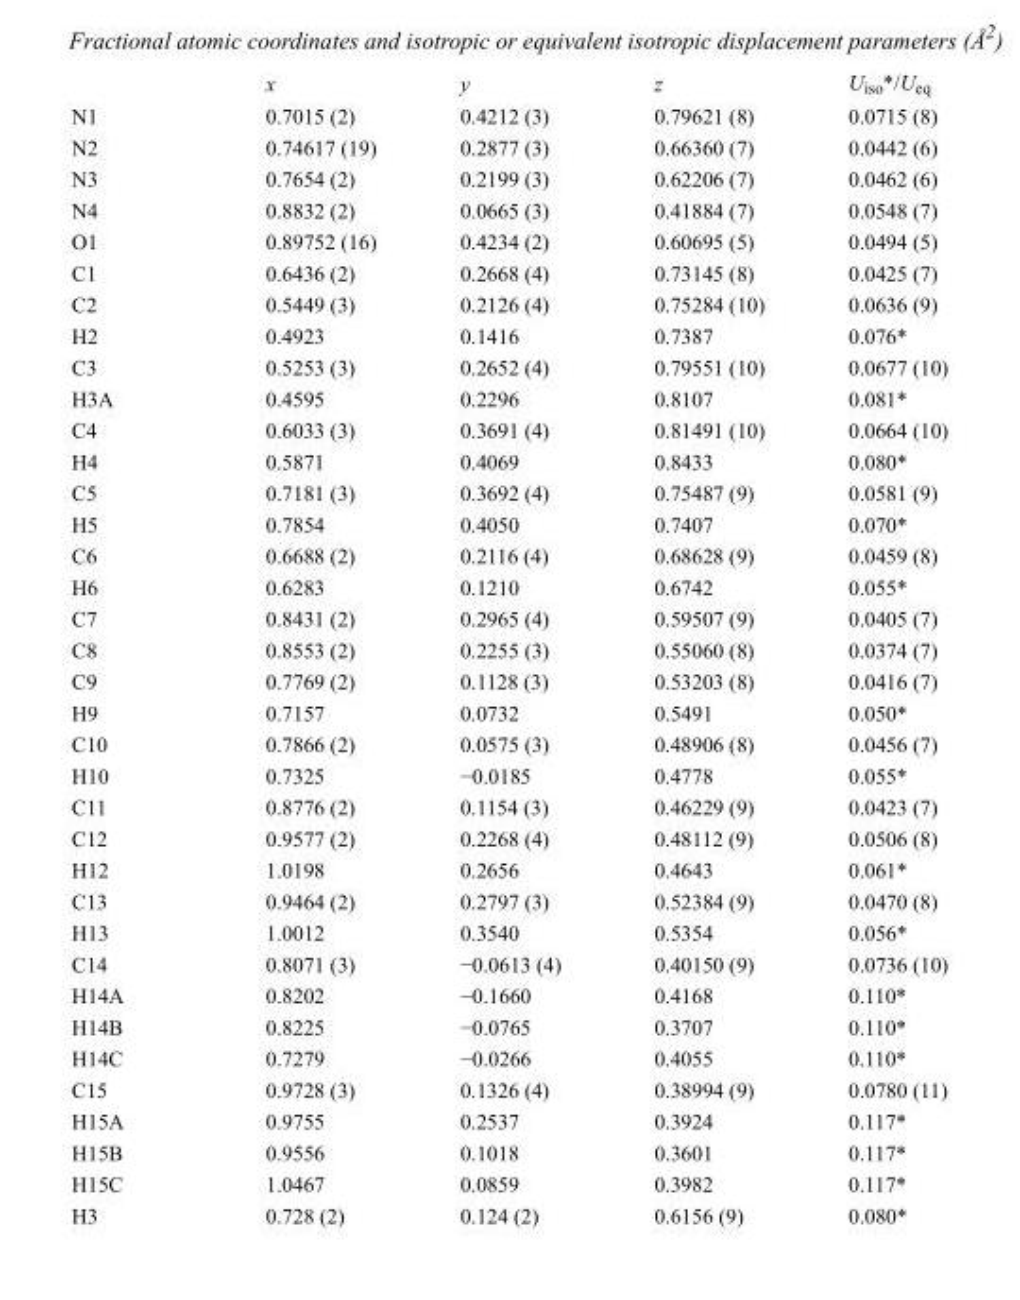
<table><thead><tr><td></td><td>x</td><td>y</td><td>z</td><td>U<sub>iso</sub>*/U<sub>eq</sub></td></tr></thead><tbody><tr><td>N1</td><td>0.7015 (2)</td><td>0.4212 (3)</td><td>0.79621 (8)</td><td>0.0715 (8)</td></tr><tr><td>N2</td><td>0.74617 (19)</td><td>0.2877 (3)</td><td>0.66360 (7)</td><td>0.0442 (6)</td></tr><tr><td>N3</td><td>0.7654 (2)</td><td>0.2199 (3)</td><td>0.62206 (7)</td><td>0.0462 (6)</td></tr><tr><td>N4</td><td>0.8832 (2)</td><td>0.0665 (3)</td><td>0.41884 (7)</td><td>0.0548 (7)</td></tr><tr><td>O1</td><td>0.89752 (16)</td><td>0.4234 (2)</td><td>0.60695 (5)</td><td>0.0494 (5)</td></tr><tr><td>C1</td><td>0.6436 (2)</td><td>0.2668 (4)</td><td>0.73145 (8)</td><td>0.0425 (7)</td></tr><tr><td>C2</td><td>0.5449 (3)</td><td>0.2126 (4)</td><td>0.75284 (10)</td><td>0.0636 (9)</td></tr><tr><td>H2</td><td>0.4923</td><td>0.1416</td><td>0.7387</td><td>0.076*</td></tr><tr><td>C3</td><td>0.5253 (3)</td><td>0.2652 (4)</td><td>0.79551 (10)</td><td>0.0677 (10)</td></tr><tr><td>H3A</td><td>0.4595</td><td>0.2296</td><td>0.8107</td><td>0.081*</td></tr><tr><td>C4</td><td>0.6033 (3)</td><td>0.3691 (4)</td><td>0.81491 (10)</td><td>0.0664 (10)</td></tr><tr><td>H4</td><td>0.5871</td><td>0.4069</td><td>0.8433</td><td>0.080*</td></tr><tr><td>C5</td><td>0.7181 (3)</td><td>0.3692 (4)</td><td>0.75487 (9)</td><td>0.0581 (9)</td></tr><tr><td>H5</td><td>0.7854</td><td>0.4050</td><td>0.7407</td><td>0.070*</td></tr><tr><td>C6</td><td>0.6688 (2)</td><td>0.2116 (4)</td><td>0.68628 (9)</td><td>0.0459 (8)</td></tr><tr><td>H6</td><td>0.6283</td><td>0.1210</td><td>0.6742</td><td>0.055*</td></tr><tr><td>C7</td><td>0.8431 (2)</td><td>0.2965 (4)</td><td>0.59507 (9)</td><td>0.0405 (7)</td></tr><tr><td>C8</td><td>0.8553 (2)</td><td>0.2255 (3)</td><td>0.55060 (8)</td><td>0.0374 (7)</td></tr><tr><td>C9</td><td>0.7769 (2)</td><td>0.1128 (3)</td><td>0.53203 (8)</td><td>0.0416 (7)</td></tr><tr><td>H9</td><td>0.7157</td><td>0.0732</td><td>0.5491</td><td>0.050*</td></tr><tr><td>C10</td><td>0.7866 (2)</td><td>0.0575 (3)</td><td>0.48906 (8)</td><td>0.0456 (7)</td></tr><tr><td>H10</td><td>0.7325</td><td>−0.0185</td><td>0.4778</td><td>0.055*</td></tr><tr><td>C11</td><td>0.8776 (2)</td><td>0.1154 (3)</td><td>0.46229 (9)</td><td>0.0423 (7)</td></tr><tr><td>C12</td><td>0.9577 (2)</td><td>0.2268 (4)</td><td>0.48112 (9)</td><td>0.0506 (8)</td></tr><tr><td>H12</td><td>1.0198</td><td>0.2656</td><td>0.4643</td><td>0.061*</td></tr><tr><td>C13</td><td>0.9464 (2)</td><td>0.2797 (3)</td><td>0.52384 (9)</td><td>0.0470 (8)</td></tr><tr><td>H13</td><td>1.0012</td><td>0.3540</td><td>0.5354</td><td>0.056*</td></tr><tr><td>C14</td><td>0.8071 (3)</td><td>−0.0613 (4)</td><td>0.40150 (9)</td><td>0.0736 (10)</td></tr><tr><td>H14A</td><td>0.8202</td><td>−0.1660</td><td>0.4168</td><td>0.110*</td></tr><tr><td>H14B</td><td>0.8225</td><td>−0.0765</td><td>0.3707</td><td>0.110*</td></tr><tr><td>H14C</td><td>0.7279</td><td>−0.0266</td><td>0.4055</td><td>0.110*</td></tr><tr><td>C15</td><td>0.9728 (3)</td><td>0.1326 (4)</td><td>0.38994 (9)</td><td>0.0780 (11)</td></tr><tr><td>H15A</td><td>0.9755</td><td>0.2537</td><td>0.3924</td><td>0.117*</td></tr><tr><td>H15B</td><td>0.9556</td><td>0.1018</td><td>0.3601</td><td>0.117*</td></tr><tr><td>H15C</td><td>1.0467</td><td>0.0859</td><td>0.3982</td><td>0.117*</td></tr><tr><td>H3</td><td>0.728 (2)</td><td>0.124 (2)</td><td>0.6156 (9)</td><td>0.080*</td></tr></tbody></table>